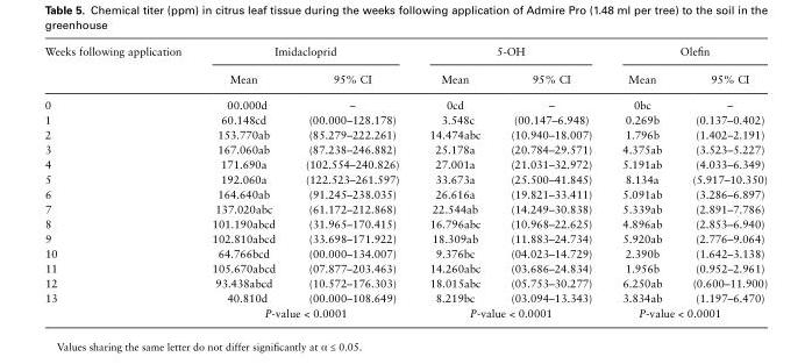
<table><thead><tr><td rowspan="2">Weeks following application</td><td colspan="2">Imidacloprid</td><td colspan="2">5-OH</td><td colspan="2">Olefin</td></tr><tr><td>Mean</td><td>95% CI</td><td>Mean</td><td>95% CI</td><td>Mean</td><td>95% CI</td></tr></thead><tbody><tr><td>0</td><td>00.000d</td><td>–</td><td>0cd</td><td>–</td><td>0bc</td><td>–</td></tr><tr><td>1</td><td>60.148cd</td><td>(00.000–128.178)</td><td>3.548c</td><td>(00.147–6.948)</td><td>0.269b</td><td>(0.137–0.402)</td></tr><tr><td>2</td><td>153.770ab</td><td>(85.279–222.261)</td><td>14.474abc</td><td>(10.940–18.007)</td><td>1.796b</td><td>(1.402–2.191)</td></tr><tr><td>3</td><td>167.060ab</td><td>(87.238–246.882)</td><td>25.178a</td><td>(20.784–29.571)</td><td>4.375ab</td><td>(3.523–5.227)</td></tr><tr><td>4</td><td>171.690a</td><td>(102.554–240.826)</td><td>27.001a</td><td>(21.031–32.972)</td><td>5.191ab</td><td>(4.033–6.349)</td></tr><tr><td>5</td><td>192.060a</td><td>(122.523–261.597)</td><td>33.673a</td><td>(25.500–41.845)</td><td>8.134a</td><td>(5.917–10.350)</td></tr><tr><td>6</td><td>164.640ab</td><td>(91.245–238.035)</td><td>26.616a</td><td>(19.821–33.411)</td><td>5.091ab</td><td>(3.286–6.897)</td></tr><tr><td>7</td><td>137.020abc</td><td>(61.172–212.868)</td><td>22.544ab</td><td>(14.249–30.838)</td><td>5.339ab</td><td>(2.891–7.786)</td></tr><tr><td>8</td><td>101.190abcd</td><td>(31.965–170.415)</td><td>16.796abc</td><td>(10.968–22.625)</td><td>4.896ab</td><td>(2.853–6.940)</td></tr><tr><td>9</td><td>102.810abcd</td><td>(33.698–171.922)</td><td>18.309ab</td><td>(11.883–24.734)</td><td>5.920ab</td><td>(2.776–9.064)</td></tr><tr><td>10</td><td>64.766bcd</td><td>(00.000–134.007)</td><td>9.376bc</td><td>(04.023–14.729)</td><td>2.390b</td><td>(1.642–3.138)</td></tr><tr><td>11</td><td>105.670abcd</td><td>(07.877–203.463)</td><td>14.260abc</td><td>(03.686–24.834)</td><td>1.956b</td><td>(0.952–2.961)</td></tr><tr><td>12</td><td>93.438abcd</td><td>(10.572–176.303)</td><td>18.015abc</td><td>(05.753–30.277)</td><td>6.250ab</td><td>(0.600–11.900)</td></tr><tr><td rowspan="2">13</td><td>40.810d</td><td>(00.000–108.649)</td><td>8.219bc</td><td>(03.094–13.343)</td><td>3.834ab</td><td>(1.197–6.470)</td></tr><tr><td colspan="2">P-value &lt; 0.0001</td><td colspan="2">P-value &lt; 0.0001</td><td colspan="2">P-value &lt; 0.0001</td></tr></tbody></table>